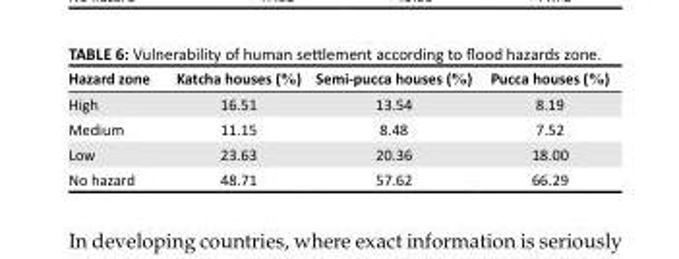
<table><thead><tr><td>Hazard zone</td><td>Katcha houses (%)</td><td>Semi-pucca houses (%)</td><td>Pucca houses (%)</td></tr></thead><tbody><tr><td>High</td><td>16.51</td><td>13.54</td><td>8.19</td></tr><tr><td>Medium</td><td>11.15</td><td>8.48</td><td>7.52</td></tr><tr><td>Low</td><td>23.63</td><td>20.36</td><td>18.00</td></tr><tr><td>No hazard</td><td>48.71</td><td>57.62</td><td>66.29</td></tr></tbody></table>